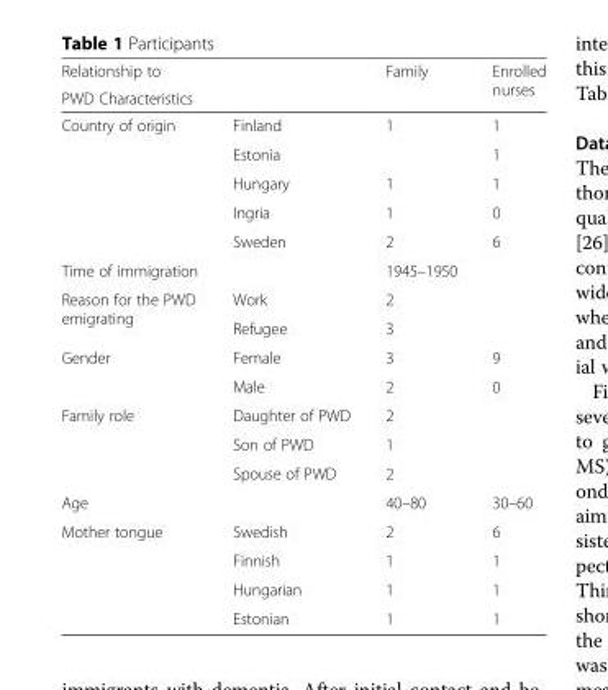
<table><thead><tr><td rowspan="2">Relationship to PWD Characteristics</td><td rowspan="2"></td><td rowspan="2">Family</td><td rowspan="2">Enrolled nurses</td></tr><tr></tr></thead><tbody><tr><td rowspan="5">Country of origin</td><td>Finland</td><td>1</td><td>1</td></tr><tr><td>Estonia</td><td></td><td>1</td></tr><tr><td>Hungary</td><td>1</td><td>1</td></tr><tr><td>Ingria</td><td>1</td><td>0</td></tr><tr><td>Sweden</td><td>2</td><td>6</td></tr><tr><td>Time of immigration</td><td></td><td>1945–1950</td><td></td></tr><tr><td rowspan="2">Reason for the PWD emigrating</td><td>Work</td><td>2</td><td></td></tr><tr><td>Refugee</td><td>3</td><td></td></tr><tr><td rowspan="2">Gender</td><td>Female</td><td>3</td><td>9</td></tr><tr><td>Male</td><td>2</td><td>0</td></tr><tr><td rowspan="3">Family role</td><td>Daughter of PWD</td><td>2</td><td></td></tr><tr><td>Son of PWD</td><td>1</td><td></td></tr><tr><td>Spouse of PWD</td><td>2</td><td></td></tr><tr><td>Age</td><td></td><td>40–80</td><td>30–60</td></tr><tr><td rowspan="4">Mother tongue</td><td>Swedish</td><td>2</td><td>6</td></tr><tr><td>Finnish</td><td>1</td><td>1</td></tr><tr><td>Hungarian</td><td>1</td><td>1</td></tr><tr><td>Estonian</td><td>1</td><td>1</td></tr></tbody></table>